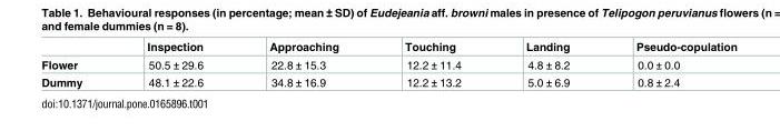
<table><thead><tr><td></td><td>Inspection</td><td>Approaching</td><td>Touching</td><td>Landing</td><td>Pseudo-copulation</td></tr></thead><tbody><tr><td>Flower</td><td>50.5 ± 29.6</td><td>22.8 ± 15.3</td><td>12.2 ± 11.4</td><td>4.8 ± 8.2</td><td>0.0 ± 0.0</td></tr><tr><td>Dummy</td><td>48.1 ± 22.6</td><td>34.8 ± 16.9</td><td>12.2 ± 13.2</td><td>5.0 ± 6.9</td><td>0.8 ± 2.4</td></tr></tbody></table>